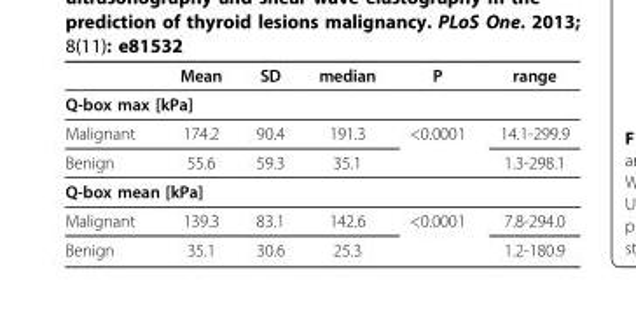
<table><thead><tr><td></td><td>Mean</td><td>SD</td><td>median</td><td>P</td><td>range</td></tr></thead><tbody><tr><td colspan="6">Q-box max [kPa]</td></tr><tr><td>Malignant</td><td>174.2</td><td>90.4</td><td>191.3</td><td>&lt;0.0001</td><td>14.1-299.9</td></tr><tr><td>Benign</td><td>55.6</td><td>59.3</td><td>35.1</td><td></td><td>1.3-298.1</td></tr><tr><td colspan="6">Q-box mean [kPa]</td></tr><tr><td>Malignant</td><td>139.3</td><td>83.1</td><td>142.6</td><td>&lt;0.0001</td><td>7.8-294.0</td></tr><tr><td>Benign</td><td>35.1</td><td>30.6</td><td>25.3</td><td></td><td>1.2-180.9</td></tr></tbody></table>